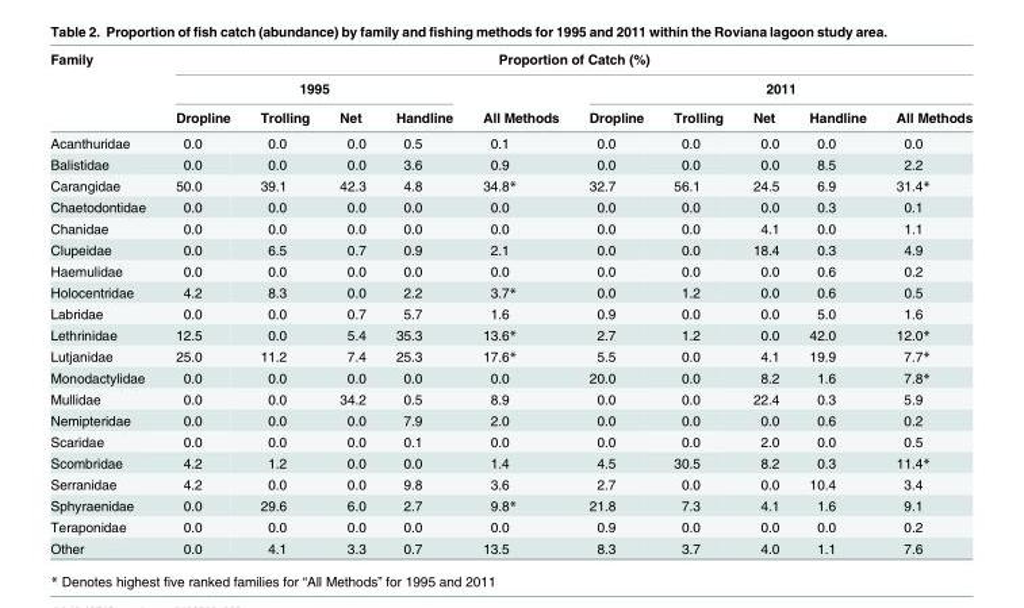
<table><thead><tr><td rowspan="3">Family</td><td colspan="10">Proportion of Catch (%)</td></tr><tr><td colspan="4">1995</td><td rowspan="2">All Methods</td><td colspan="5">2011</td></tr><tr><td>Dropline</td><td>Trolling</td><td>Net</td><td>Handline</td><td>Dropline</td><td>Trolling</td><td>Net</td><td>Handline</td><td>All Methods</td></tr></thead><tbody><tr><td>Acanthuridae</td><td>0.0</td><td>0.0</td><td>0.0</td><td>0.5</td><td>0.1</td><td>0.0</td><td>0.0</td><td>0.0</td><td>0.0</td><td>0.0</td></tr><tr><td>Balistidae</td><td>0.0</td><td>0.0</td><td>0.0</td><td>3.6</td><td>0.9</td><td>0.0</td><td>0.0</td><td>0.0</td><td>8.5</td><td>2.2</td></tr><tr><td>Carangidae</td><td>50.0</td><td>39.1</td><td>42.3</td><td>4.8</td><td>34.8*</td><td>32.7</td><td>56.1</td><td>24.5</td><td>6.9</td><td>31.4*</td></tr><tr><td>Chaetodontidae</td><td>0.0</td><td>0.0</td><td>0.0</td><td>0.0</td><td>0.0</td><td>0.0</td><td>0.0</td><td>0.0</td><td>0.3</td><td>0.1</td></tr><tr><td>Chanidae</td><td>0.0</td><td>0.0</td><td>0.0</td><td>0.0</td><td>0.0</td><td>0.0</td><td>0.0</td><td>4.1</td><td>0.0</td><td>1.1</td></tr><tr><td>Clupeidae</td><td>0.0</td><td>6.5</td><td>0.7</td><td>0.9</td><td>2.1</td><td>0.0</td><td>0.0</td><td>18.4</td><td>0.3</td><td>4.9</td></tr><tr><td>Haemulidae</td><td>0.0</td><td>0.0</td><td>0.0</td><td>0.0</td><td>0.0</td><td>0.0</td><td>0.0</td><td>0.0</td><td>0.6</td><td>0.2</td></tr><tr><td>Holocentridae</td><td>4.2</td><td>8.3</td><td>0.0</td><td>2.2</td><td>3.7*</td><td>0.0</td><td>1.2</td><td>0.0</td><td>0.6</td><td>0.5</td></tr><tr><td>Labridae</td><td>0.0</td><td>0.0</td><td>0.7</td><td>5.7</td><td>1.6</td><td>0.9</td><td>0.0</td><td>0.0</td><td>5.0</td><td>1.6</td></tr><tr><td>Lethrinidae</td><td>12.5</td><td>0.0</td><td>5.4</td><td>35.3</td><td>13.6*</td><td>2.7</td><td>1.2</td><td>0.0</td><td>42.0</td><td>12.0*</td></tr><tr><td>Lutjanidae</td><td>25.0</td><td>11.2</td><td>7.4</td><td>25.3</td><td>17.6*</td><td>5.5</td><td>0.0</td><td>4.1</td><td>19.9</td><td>7.7*</td></tr><tr><td>Monodactylidae</td><td>0.0</td><td>0.0</td><td>0.0</td><td>0.0</td><td>0.0</td><td>20.0</td><td>0.0</td><td>8.2</td><td>1.6</td><td>7.8*</td></tr><tr><td>Mullidae</td><td>0.0</td><td>0.0</td><td>34.2</td><td>0.5</td><td>8.9</td><td>0.0</td><td>0.0</td><td>22.4</td><td>0.3</td><td>5.9</td></tr><tr><td>Nemipteridae</td><td>0.0</td><td>0.0</td><td>0.0</td><td>7.9</td><td>2.0</td><td>0.0</td><td>0.0</td><td>0.0</td><td>0.6</td><td>0.2</td></tr><tr><td>Scaridae</td><td>0.0</td><td>0.0</td><td>0.0</td><td>0.1</td><td>0.0</td><td>0.0</td><td>0.0</td><td>2.0</td><td>0.0</td><td>0.5</td></tr><tr><td>Scombridae</td><td>4.2</td><td>1.2</td><td>0.0</td><td>0.0</td><td>1.4</td><td>4.5</td><td>30.5</td><td>8.2</td><td>0.3</td><td>11.4*</td></tr><tr><td>Serranidae</td><td>4.2</td><td>0.0</td><td>0.0</td><td>9.8</td><td>3.6</td><td>2.7</td><td>0.0</td><td>0.0</td><td>10.4</td><td>3.4</td></tr><tr><td>Sphyraenidae</td><td>0.0</td><td>29.6</td><td>6.0</td><td>2.7</td><td>9.8*</td><td>21.8</td><td>7.3</td><td>4.1</td><td>1.6</td><td>9.1</td></tr><tr><td>Teraponidae</td><td>0.0</td><td>0.0</td><td>0.0</td><td>0.0</td><td>0.0</td><td>0.9</td><td>0.0</td><td>0.0</td><td>0.0</td><td>0.2</td></tr><tr><td>Other</td><td>0.0</td><td>4.1</td><td>3.3</td><td>0.7</td><td>13.5</td><td>8.3</td><td>3.7</td><td>4.0</td><td>1.1</td><td>7.6</td></tr></tbody></table>